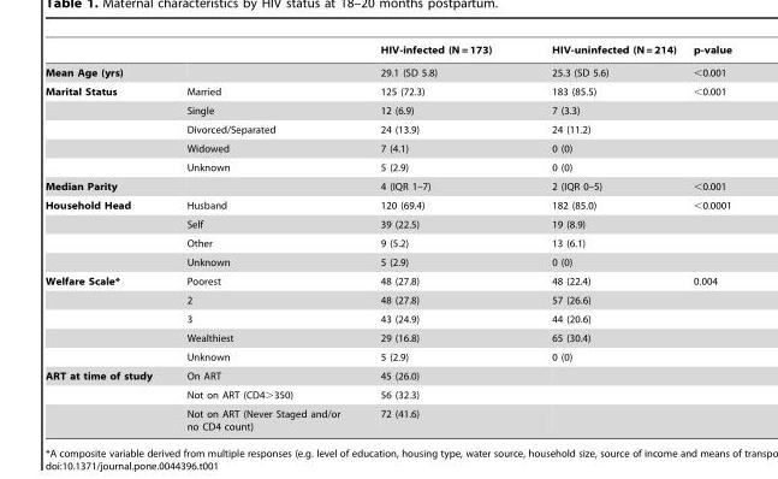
<table><thead><tr><td></td><td></td><td>HIV-infected (N = 173)</td><td>HIV-uninfected (N = 214)</td><td>p-value</td></tr></thead><tbody><tr><td>Mean Age (yrs)</td><td></td><td>29.1 (SD 5.8)</td><td>25.3 (SD 5.6)</td><td>&lt;0.001</td></tr><tr><td rowspan="5">Marital Status</td><td>Married</td><td>125 (72.3)</td><td>183 (85.5)</td><td>&lt;0.001</td></tr><tr><td>Single</td><td>12 (6.9)</td><td>7 (3.3)</td><td></td></tr><tr><td>Divorced/Separated</td><td>24 (13.9)</td><td>24 (11.2)</td><td></td></tr><tr><td>Widowed</td><td>7 (4.1)</td><td>0 (0)</td><td></td></tr><tr><td>Unknown</td><td>5 (2.9)</td><td>0 (0)</td><td></td></tr><tr><td>Median Parity</td><td></td><td>4 (IQR 1–7)</td><td>2 (IQR 0–5)</td><td>&lt;0.001</td></tr><tr><td rowspan="4">Household Head</td><td>Husband</td><td>120 (69.4)</td><td>182 (85.0)</td><td>&lt;0.0001</td></tr><tr><td>Self</td><td>39 (22.5)</td><td>19 (8.9)</td><td></td></tr><tr><td>Other</td><td>9 (5.2)</td><td>13 (6.1)</td><td></td></tr><tr><td>Unknown</td><td>5 (2.9)</td><td>0 (0)</td><td></td></tr><tr><td rowspan="5">Welfare Scale*</td><td>Poorest</td><td>48 (27.8)</td><td>48 (22.4)</td><td>0.004</td></tr><tr><td>2</td><td>48 (27.8)</td><td>57 (26.6)</td><td></td></tr><tr><td>3</td><td>43 (24.9)</td><td>44 (20.6)</td><td></td></tr><tr><td>Wealthiest</td><td>29 (16.8)</td><td>65 (30.4)</td><td></td></tr><tr><td>Unknown</td><td>5 (2.9)</td><td>0 (0)</td><td></td></tr><tr><td rowspan="3">ART at time of study</td><td>On ART</td><td>45 (26.0)</td><td></td><td></td></tr><tr><td>Not on ART (CD4&gt;350)</td><td>56 (32.3)</td><td></td><td></td></tr><tr><td>Not on ART (Never Staged and/or no CD4 count)</td><td>72 (41.6)</td><td></td><td></td></tr></tbody></table>